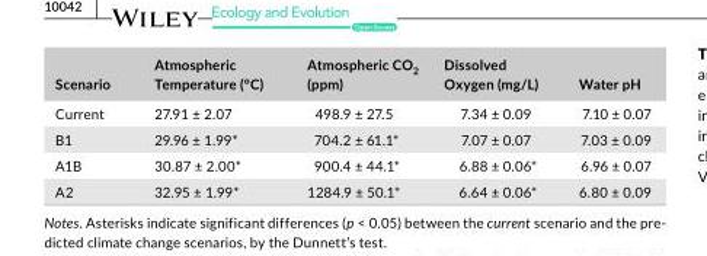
<table><thead><tr><td>Scenario</td><td>Atmospheric Temperature (°C)</td><td>Atmospheric CO<sub>2</sub> (ppm)</td><td>Dissolved Oxygen (mg/L)</td><td>Water pH</td></tr></thead><tbody><tr><td>Current</td><td>27.91 ± 2.07</td><td>498.9 ± 27.5</td><td>7.34 ± 0.09</td><td>7.10 ± 0.07</td></tr><tr><td>B1</td><td>29.96 ± 1.99*</td><td>704.2 ± 61.1*</td><td>7.07 ± 0.07</td><td>7.03 ± 0.09</td></tr><tr><td>A1B</td><td>30.87 ± 2.00*</td><td>900.4 ± 44.1*</td><td>6.88 ± 0.06*</td><td>6.96 ± 0.07</td></tr><tr><td>A2</td><td>32.95 ± 1.99*</td><td>1284.9 ± 50.1*</td><td>6.64 ± 0.06*</td><td>6.80 ± 0.09</td></tr></tbody></table>